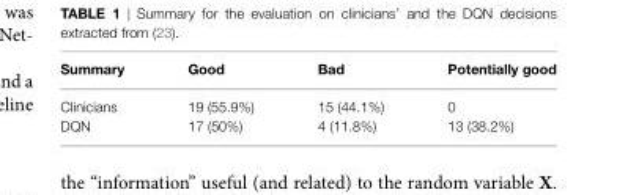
<table><thead><tr><td>Summary</td><td>Good</td><td>Bad</td><td>Potentially good</td></tr></thead><tbody><tr><td>Clinicians</td><td>19 (55.9%)</td><td>15 (44.1%)</td><td>0</td></tr><tr><td>DQN</td><td>17 (50%)</td><td>4 (11.8%)</td><td>13 (38.2%)</td></tr></tbody></table>